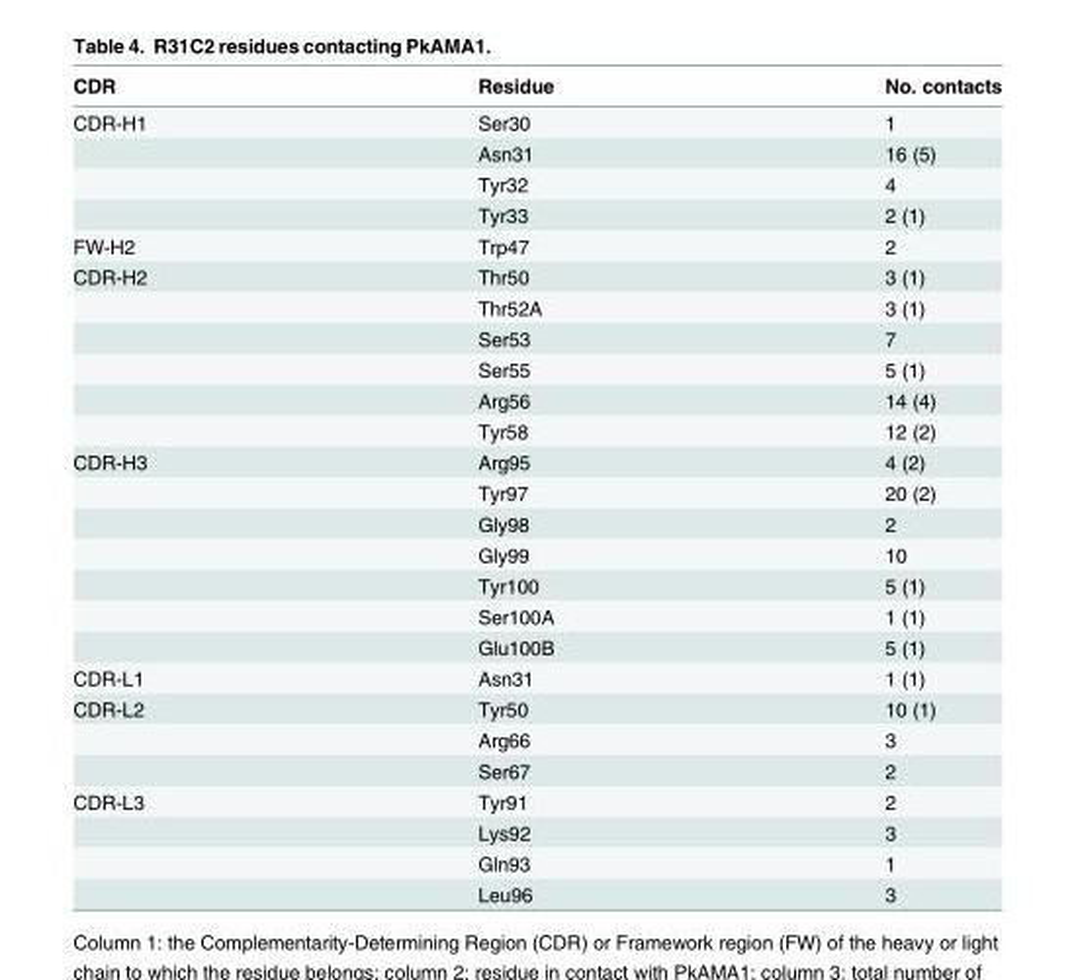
<table><thead><tr><td>CDR</td><td>Residue</td><td>No. contacts</td></tr></thead><tbody><tr><td rowspan="4">CDR-H1</td><td>Ser30</td><td>1</td></tr><tr><td>Asn31</td><td>16 (5)</td></tr><tr><td>Tyr32</td><td>4</td></tr><tr><td>Tyr33</td><td>2 (1)</td></tr><tr><td>FW-H2</td><td>Trp47</td><td>2</td></tr><tr><td rowspan="6">CDR-H2</td><td>Thr50</td><td>3 (1)</td></tr><tr><td>Thr52A</td><td>3 (1)</td></tr><tr><td>Ser53</td><td>7</td></tr><tr><td>Ser55</td><td>5 (1)</td></tr><tr><td>Arg56</td><td>14 (4)</td></tr><tr><td>Tyr58</td><td>12 (2)</td></tr><tr><td rowspan="7">CDR-H3</td><td>Arg95</td><td>4 (2)</td></tr><tr><td>Tyr97</td><td>20 (2)</td></tr><tr><td>Gly98</td><td>2</td></tr><tr><td>Gly99</td><td>10</td></tr><tr><td>Tyr100</td><td>5 (1)</td></tr><tr><td>Ser100A</td><td>1 (1)</td></tr><tr><td>Glu100B</td><td>5 (1)</td></tr><tr><td>CDR-L1</td><td>Asn31</td><td>1 (1)</td></tr><tr><td rowspan="3">CDR-L2</td><td>Tyr50</td><td>10 (1)</td></tr><tr><td>Arg66</td><td>3</td></tr><tr><td>Ser67</td><td>2</td></tr><tr><td rowspan="4">CDR-L3</td><td>Tyr91</td><td>2</td></tr><tr><td>Lys92</td><td>3</td></tr><tr><td>Gln93</td><td>1</td></tr><tr><td>Leu96</td><td>3</td></tr></tbody></table>